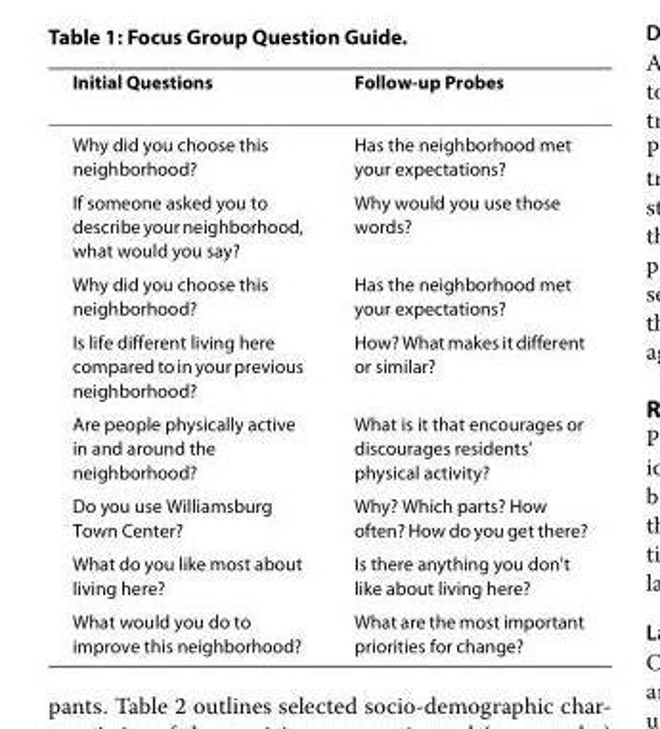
<table><thead><tr><td>Initial Questions</td><td>Follow-up Probes</td></tr></thead><tbody><tr><td>Why did you choose this neighborhood?</td><td>Has the neighborhood met your expectations?</td></tr><tr><td>If someone asked you to describe your neighborhood, what would you say?</td><td>Why would you use those words?</td></tr><tr><td>Why did you choose this neighborhood?</td><td>Has the neighborhood met your expectations?</td></tr><tr><td>Is life different living here compared to in your previous neighborhood?</td><td>How? What makes it different or similar?</td></tr><tr><td>Are people physically active in and around the neighborhood?</td><td>What is it that encourages or discourages residents&#x27; physical activity?</td></tr><tr><td>Do you use Williamsburg Town Center?</td><td>Why? Which parts? How often? How do you get there?</td></tr><tr><td>What do you like most about living here?</td><td>Is there anything you don&#x27;t like about living here?</td></tr><tr><td>What would you do to improve this neighborhood?</td><td>What are the most important priorities for change?</td></tr></tbody></table>